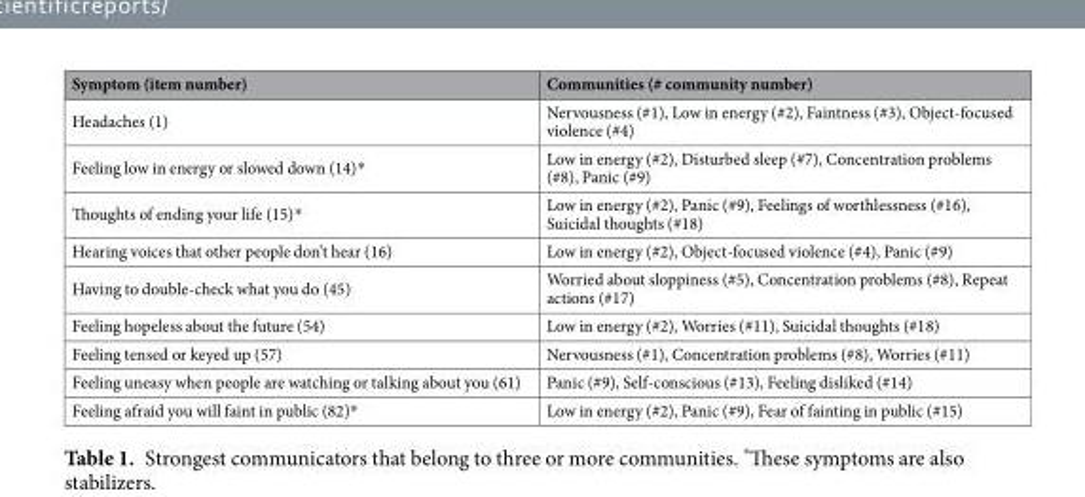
<table><thead><tr><td>Symptom (item number)</td><td>Communities (# community number)</td></tr></thead><tbody><tr><td>Headaches (1)</td><td>Nervousness (#1), Low in energy (#2), Faintness (#3), Object-focused violence (#4)</td></tr><tr><td>Feeling low in energy or slowed down (14)*</td><td>Low in energy (#2), Disturbed sleep (#7), Concentration problems (#8), Panic (#9)</td></tr><tr><td>Thoughts of ending your life (15)*</td><td>Low in energy (#2), Panic (#9), Feelings of worthlessness (#16), Suicidal thoughts (#18)</td></tr><tr><td>Hearing voices that other people don’t hear (16)</td><td>Low in energy (#2), Object-focused violence (#4), Panic (#9)</td></tr><tr><td>Having to double-check what you do (45)</td><td>Worried about sloppiness (#5), Concentration problems (#8), Repeat actions (#17)</td></tr><tr><td>Feeling hopeless about the future (54)</td><td>Low in energy (#2), Worries (#11), Suicidal thoughts (#18)</td></tr><tr><td>Feeling tensed or keyed up (57)</td><td>Nervousness (#1), Concentration problems (#8), Worries (#11)</td></tr><tr><td>Feeling uneasy when people are watching or talking about you (61)</td><td>Panic (#9), Self-conscious (#13), Feeling disliked (#14)</td></tr><tr><td>Feeling afraid you will faint in public (82)*</td><td>Low in energy (#2), Panic (#9), Fear of fainting in public (#15)</td></tr></tbody></table>